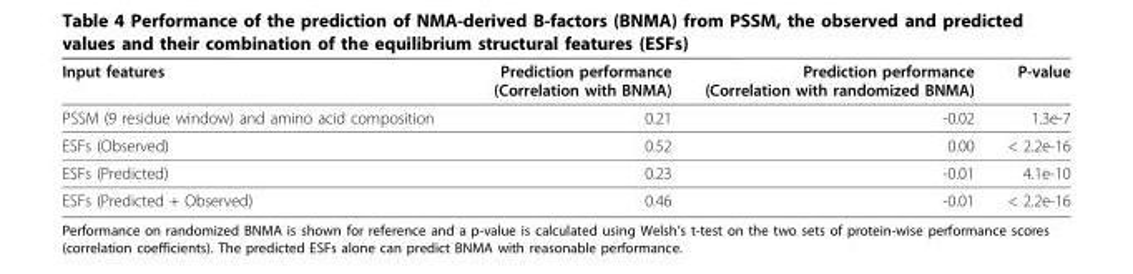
<table><thead><tr><td>Input features</td><td>Prediction performance (Correlation with BNMA)</td><td>Prediction performance (Correlation with randomized BNMA)</td><td>P-value</td></tr></thead><tbody><tr><td>PSSM (9 residue window) and amino acid composition</td><td>0.21</td><td>-0.02</td><td>1.3e-7</td></tr><tr><td>ESFs (Observed)</td><td>0.52</td><td>0.00</td><td>&lt; 2.2e-16</td></tr><tr><td>ESFs (Predicted)</td><td>0.23</td><td>-0.01</td><td>4.1e-10</td></tr><tr><td>ESFs (Predicted + Observed)</td><td>0.46</td><td>-0.01</td><td>&lt; 2.2e-16</td></tr></tbody></table>